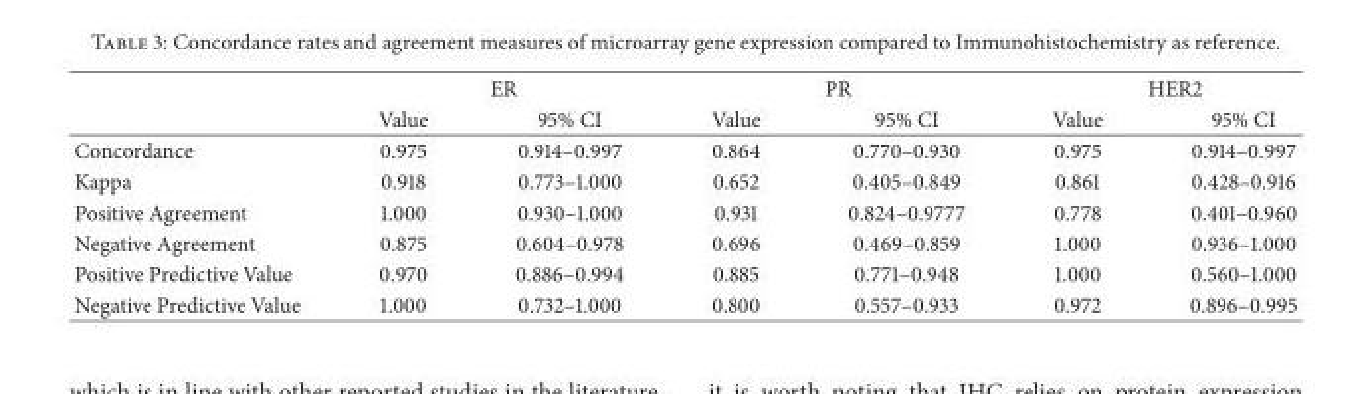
<table><thead><tr><td rowspan="2"></td><td colspan="2">ER</td><td colspan="2">PR</td><td colspan="2">HER2</td></tr><tr><td>Value</td><td>95% CI</td><td>Value</td><td>95% CI</td><td>Value</td><td>95% CI</td></tr></thead><tbody><tr><td>Concordance</td><td>0.975</td><td>0.914–0.997</td><td>0.864</td><td>0.770–0.930</td><td>0.975</td><td>0.914–0.997</td></tr><tr><td>Kappa</td><td>0.918</td><td>0.773–1.000</td><td>0.652</td><td>0.405–0.849</td><td>0.861</td><td>0.428–0.916</td></tr><tr><td>Positive Agreement</td><td>1.000</td><td>0.930–1.000</td><td>0.931</td><td>0.824–0.9777</td><td>0.778</td><td>0.401–0.960</td></tr><tr><td>Negative Agreement</td><td>0.875</td><td>0.604–0.978</td><td>0.696</td><td>0.469–0.859</td><td>1.000</td><td>0.936–1.000</td></tr><tr><td>Positive Predictive Value</td><td>0.970</td><td>0.886–0.994</td><td>0.885</td><td>0.771–0.948</td><td>1.000</td><td>0.560–1.000</td></tr><tr><td>Negative Predictive Value</td><td>1.000</td><td>0.732–1.000</td><td>0.800</td><td>0.557–0.933</td><td>0.972</td><td>0.896–0.995</td></tr></tbody></table>